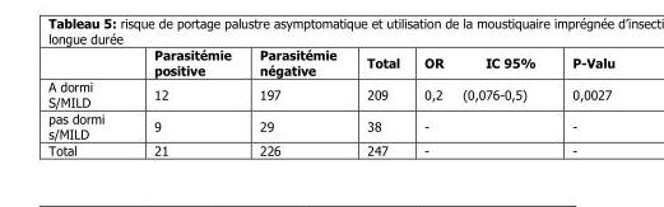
<table><thead><tr><td></td><td>Parasitémie positive</td><td>Parasitémie négative</td><td>Total</td><td>OR IC 95%</td><td>P-Valu</td></tr></thead><tbody><tr><td>A dormi S/MILD</td><td>12</td><td>197</td><td>209</td><td>0,2 (0,076-0,5)</td><td>0,0027</td></tr><tr><td>pas dormi s/MILD</td><td>9</td><td>29</td><td>38</td><td>-</td><td>-</td></tr><tr><td>Total</td><td>21</td><td>226</td><td>247</td><td>-</td><td>-</td></tr></tbody></table>